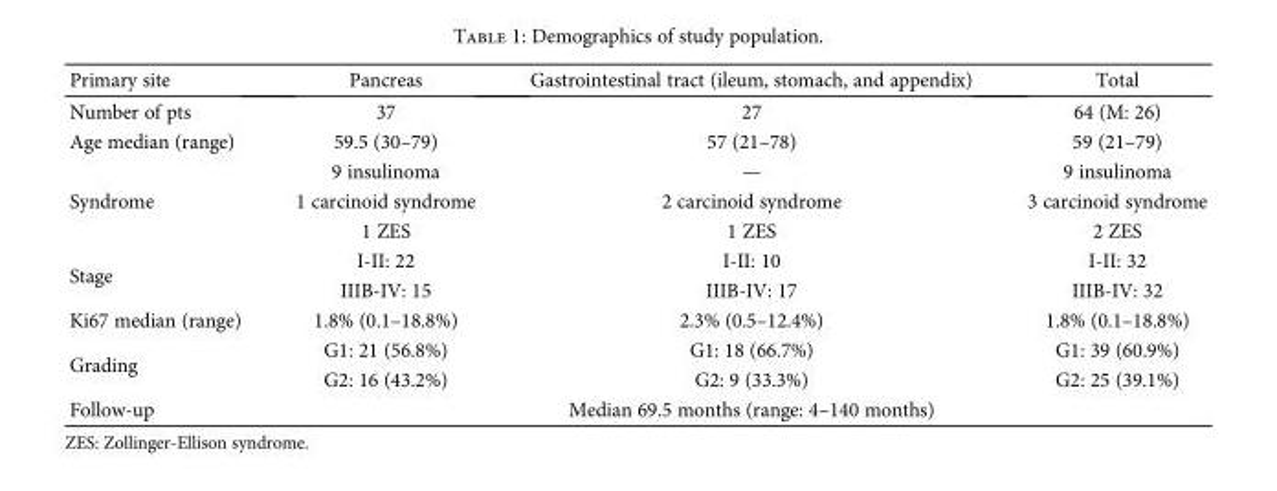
<table><thead><tr><td>Primary site</td><td>Pancreas</td><td>Gastrointestinal tract (ileum, stomach, and appendix)</td><td>Total</td></tr></thead><tbody><tr><td>Number of pts</td><td>37</td><td>27</td><td>64 (M: 26)</td></tr><tr><td>Age median (range)</td><td>59.5 (30–79)</td><td>57 (21–78)</td><td>59 (21–79)</td></tr><tr><td rowspan="3">Syndrome</td><td>9 insulinoma</td><td>—</td><td>9 insulinoma</td></tr><tr><td>1 carcinoid syndrome</td><td>2 carcinoid syndrome</td><td>3 carcinoid syndrome</td></tr><tr><td>1 ZES</td><td>1 ZES</td><td>2 ZES</td></tr><tr><td rowspan="2">Stage</td><td>I-II: 22</td><td>I-II: 10</td><td>I-II: 32</td></tr><tr><td>IIIB-IV: 15</td><td>IIIB-IV: 17</td><td>IIIB-IV: 32</td></tr><tr><td>Ki67 median (range)</td><td>1.8% (0.1–18.8%)</td><td>2.3% (0.5–12.4%)</td><td>1.8% (0.1–18.8%)</td></tr><tr><td rowspan="2">Grading</td><td>G1: 21 (56.8%)</td><td>G1: 18 (66.7%)</td><td>G1: 39 (60.9%)</td></tr><tr><td>G2: 16 (43.2%)</td><td>G2: 9 (33.3%)</td><td>G2: 25 (39.1%)</td></tr><tr><td>Follow-up</td><td colspan="3">Median 69.5 months (range: 4–140 months)</td></tr></tbody></table>